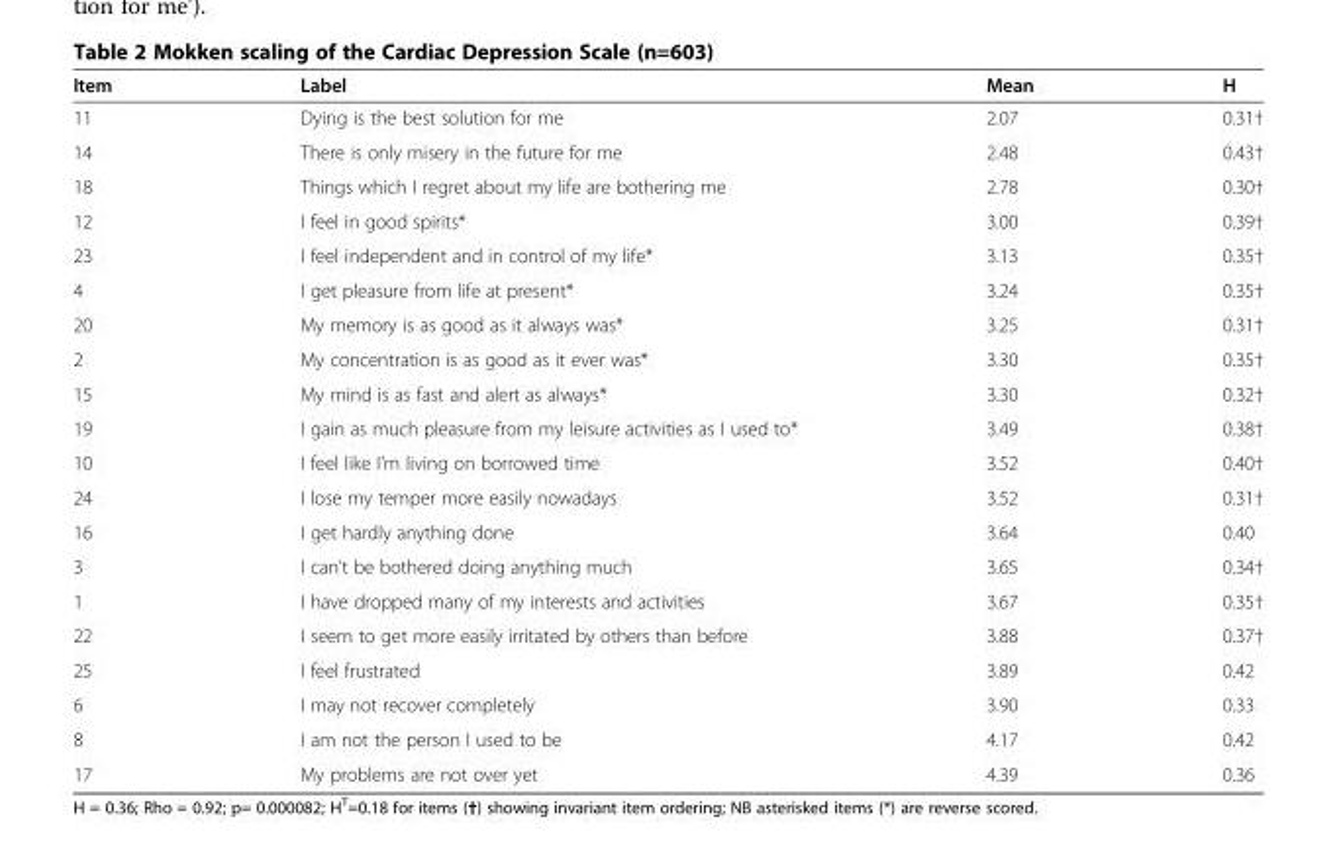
<table><thead><tr><td>Item</td><td>Label</td><td>Mean</td><td>H</td></tr></thead><tbody><tr><td>11</td><td>Dying is the best solution for me</td><td>2.07</td><td>0.31†</td></tr><tr><td>14</td><td>There is only misery in the future for me</td><td>2.48</td><td>0.43†</td></tr><tr><td>18</td><td>Things which I regret about my life are bothering me</td><td>2.78</td><td>0.30†</td></tr><tr><td>12</td><td>I feel in good spirits*</td><td>3.00</td><td>0.39†</td></tr><tr><td>23</td><td>I feel independent and in control of my life*</td><td>3.13</td><td>0.35†</td></tr><tr><td>4</td><td>I get pleasure from life at present*</td><td>3.24</td><td>0.35†</td></tr><tr><td>20</td><td>My memory is as good as it always was*</td><td>3.25</td><td>0.31†</td></tr><tr><td>2</td><td>My concentration is as good as it ever was*</td><td>3.30</td><td>0.35†</td></tr><tr><td>15</td><td>My mind is as fast and alert as always*</td><td>3.30</td><td>0.32†</td></tr><tr><td>19</td><td>I gain as much pleasure from my leisure activities as I used to*</td><td>3.49</td><td>0.38†</td></tr><tr><td>10</td><td>I feel like I’m living on borrowed time</td><td>3.52</td><td>0.40†</td></tr><tr><td>24</td><td>I lose my temper more easily nowadays</td><td>3.52</td><td>0.31†</td></tr><tr><td>16</td><td>I get hardly anything done</td><td>3.64</td><td>0.40</td></tr><tr><td>3</td><td>I can’t be bothered doing anything much</td><td>3.65</td><td>0.34†</td></tr><tr><td>1</td><td>I have dropped many of my interests and activities</td><td>3.67</td><td>0.35†</td></tr><tr><td>22</td><td>I seem to get more easily irritated by others than before</td><td>3.88</td><td>0.37†</td></tr><tr><td>25</td><td>I feel frustrated</td><td>3.89</td><td>0.42</td></tr><tr><td>6</td><td>I may not recover completely</td><td>3.90</td><td>0.33</td></tr><tr><td>8</td><td>I am not the person I used to be</td><td>4.17</td><td>0.42</td></tr><tr><td>17</td><td>My problems are not over yet</td><td>4.39</td><td>0.36</td></tr></tbody></table>